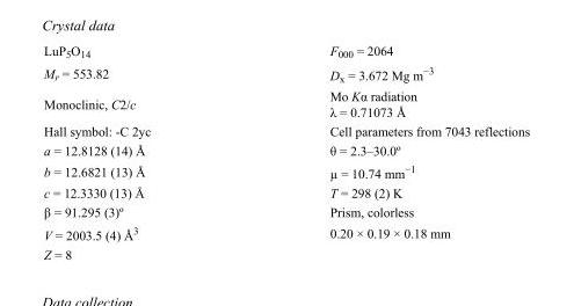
<table><tbody><tr><td>LuP<sub>5</sub>O<sub>14</sub></td><td>F<sub>000</sub> = 2064</td></tr><tr><td>M<sub>r</sub> = 553.82</td><td>D<sub>x</sub> = 3.672 Mg m<sup>−3</sup></td></tr><tr><td>Monoclinic, C2/c</td><td>Mo Kα radiation λ = 0.71073 Å</td></tr><tr><td>Hall symbol: -C 2yc</td><td>Cell parameters from 7043 reflections</td></tr><tr><td>a = 12.8128 (14) Å</td><td>θ = 2.3–30.0º</td></tr><tr><td>b = 12.6821 (13) Å</td><td>µ = 10.74 mm<sup>−1</sup></td></tr><tr><td>c = 12.3330 (13) Å</td><td>T = 298 (2) K</td></tr><tr><td>β = 91.295 (3)º</td><td>Prism, colorless</td></tr><tr><td>V = 2003.5 (4) Å<sup>3</sup></td><td>0.20 × 0.19 × 0.18 mm</td></tr><tr><td>Z = 8</td><td></td></tr></tbody></table>